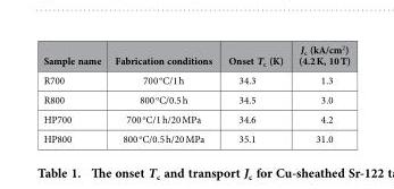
<table><thead><tr><td>Sample name</td><td>Fabrication conditions</td><td>Onset T<sub>c</sub> (K)</td><td>J<sub>c</sub> (kA/cm<sup>2</sup>) (4.2 K, 10 T)</td></tr></thead><tbody><tr><td>R700</td><td>700 °C/1 h</td><td>34.3</td><td>1.3</td></tr><tr><td>R800</td><td>800 °C/0.5 h</td><td>34.5</td><td>3.0</td></tr><tr><td>HP700</td><td>700 °C/1 h/20 MPa</td><td>34.6</td><td>4.2</td></tr><tr><td>HP800</td><td>800 °C/0.5 h/20 MPa</td><td>35.1</td><td>31.0</td></tr></tbody></table>